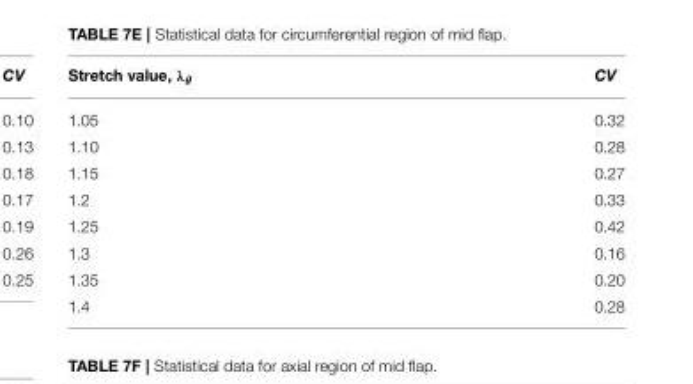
<table><thead><tr><td>Stretch value, λ<sub>θ</sub></td><td>CV</td></tr></thead><tbody><tr><td>1.05</td><td>0.32</td></tr><tr><td>1.10</td><td>0.28</td></tr><tr><td>1.15</td><td>0.27</td></tr><tr><td>1.2</td><td>0.33</td></tr><tr><td>1.25</td><td>0.42</td></tr><tr><td>1.3</td><td>0.16</td></tr><tr><td>1.35</td><td>0.20</td></tr><tr><td>1.4</td><td>0.28</td></tr></tbody></table>